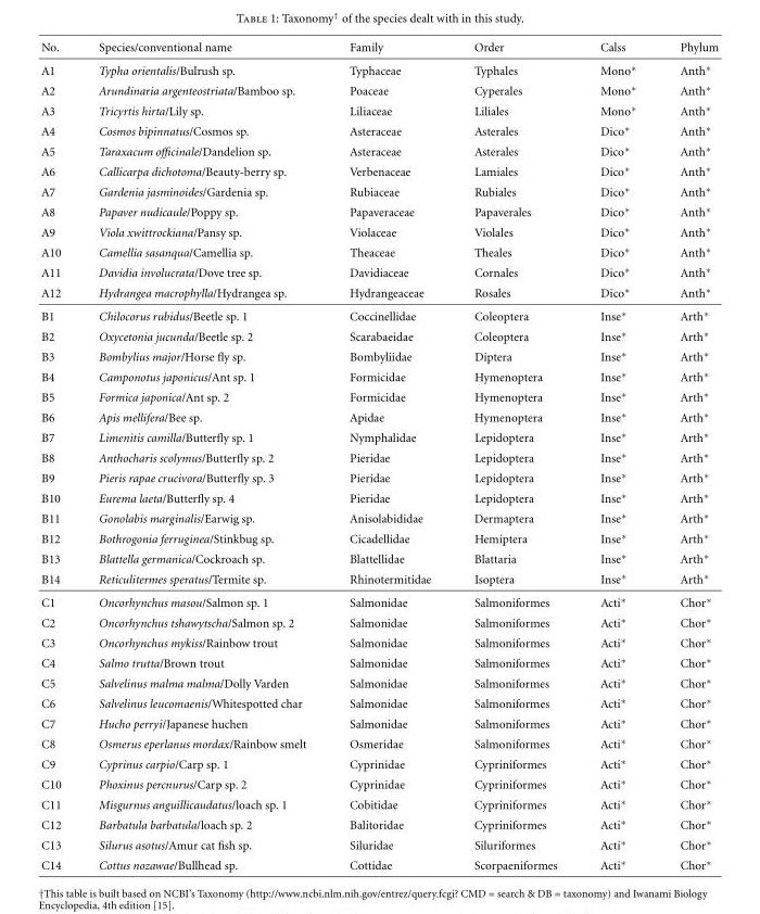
<table><tbody><tr><td>No.</td><td>Species/conventional name</td><td>Family</td><td>Order</td><td>Calss</td><td>Phylum</td></tr><tr><td>A1</td><td>Typha orientalis/Bulrush sp.</td><td>Typhaceae</td><td>Typhales</td><td>Mono∗</td><td>Anth∗</td></tr><tr><td>A2</td><td>Arundinaria argenteostriata/Bamboo sp.</td><td>Poaceae</td><td>Cyperales</td><td>Mono∗</td><td>Anth∗</td></tr><tr><td>A3</td><td>Tricyrtis hirta/Lily sp.</td><td>Liliaceae</td><td>Liliales</td><td>Mono∗</td><td>Anth∗</td></tr><tr><td>A4</td><td>Cosmos bipinnatus/Cosmos sp.</td><td>Asteraceae</td><td>Asterales</td><td>Dico∗</td><td>Anth∗</td></tr><tr><td>A5</td><td>Taraxacum officinale/Dandelion sp.</td><td>Asteraceae</td><td>Asterales</td><td>Dico∗</td><td>Anth∗</td></tr><tr><td>A6</td><td>Callicarpa dichotoma/Beauty-berry sp.</td><td>Verbenaceae</td><td>Lamiales</td><td>Dico∗</td><td>Anth∗</td></tr><tr><td>A7</td><td>Gardenia jasminoides/Gardenia sp.</td><td>Rubiaceae</td><td>Rubiales</td><td>Dico∗</td><td>Anth∗</td></tr><tr><td>A8</td><td>Papaver nudicaule/Poppy sp.</td><td>Papaveraceae</td><td>Papaverales</td><td>Dico∗</td><td>Anth∗</td></tr><tr><td>A9</td><td>Viola xwittrockiana/Pansy sp.</td><td>Violaceae</td><td>Violales</td><td>Dico∗</td><td>Anth∗</td></tr><tr><td>A10</td><td>Camellia sasanqua/Camellia sp.</td><td>Theaceae</td><td>Theales</td><td>Dico∗</td><td>Anth∗</td></tr><tr><td>A11</td><td>Davidia involucrata/Dove tree sp.</td><td>Davidiaceae</td><td>Cornales</td><td>Dico∗</td><td>Anth∗</td></tr><tr><td>A12</td><td>Hydrangea macrophylla/Hydrangea sp.</td><td>Hydrangeaceae</td><td>Rosales</td><td>Dico∗</td><td>Anth∗</td></tr><tr><td>B1</td><td>Chilocorus rubidus/Beetle sp. 1</td><td>Coccinellidae</td><td>Coleoptera</td><td>Inse∗</td><td>Arth∗</td></tr><tr><td>B2</td><td>Oxycetonia jucunda/Beetle sp. 2</td><td>Scarabaeidae</td><td>Coleoptera</td><td>Inse∗</td><td>Arth∗</td></tr><tr><td>B3</td><td>Bombylius major/Horse fly sp.</td><td>Bombyliidae</td><td>Diptera</td><td>Inse∗</td><td>Arth∗</td></tr><tr><td>B4</td><td>Camponotus japonicus/Ant sp. 1</td><td>Formicidae</td><td>Hymenoptera</td><td>Inse∗</td><td>Arth∗</td></tr><tr><td>B5</td><td>Formica japonica/Ant sp. 2</td><td>Formicidae</td><td>Hymenoptera</td><td>Inse∗</td><td>Arth∗</td></tr><tr><td>B6</td><td>Apis mellifera/Bee sp.</td><td>Apidae</td><td>Hymenoptera</td><td>Inse∗</td><td>Arth∗</td></tr><tr><td>B7</td><td>Limenitis camilla/Butterfly sp. 1</td><td>Nymphalidae</td><td>Lepidoptera</td><td>Inse∗</td><td>Arth∗</td></tr><tr><td>B8</td><td>Anthocharis scolymus/Butterfly sp. 2</td><td>Pieridae</td><td>Lepidoptera</td><td>Inse∗</td><td>Arth∗</td></tr><tr><td>B9</td><td>Pieris rapae crucivora/Butterfly sp. 3</td><td>Pieridae</td><td>Lepidoptera</td><td>Inse∗</td><td>Arth∗</td></tr><tr><td>B10</td><td>Eurema laeta/Butterfly sp. 4</td><td>Pieridae</td><td>Lepidoptera</td><td>Inse∗</td><td>Arth∗</td></tr><tr><td>B11</td><td>Gonolabis marginalis/Earwig sp.</td><td>Anisolabididae</td><td>Dermaptera</td><td>Inse∗</td><td>Arth∗</td></tr><tr><td>B12</td><td>Bothrogonia ferruginea/Stinkbug sp.</td><td>Cicadellidae</td><td>Hemiptera</td><td>Inse∗</td><td>Arth∗</td></tr><tr><td>B13</td><td>Blattella germanica/Cockroach sp.</td><td>Blattellidae</td><td>Blattaria</td><td>Inse∗</td><td>Arth∗</td></tr><tr><td>B14</td><td>Reticulitermes speratus/Termite sp.</td><td>Rhinotermitidae</td><td>Isoptera</td><td>Inse∗</td><td>Arth∗</td></tr><tr><td>C1</td><td>Oncorhynchus masou/Salmon sp. 1</td><td>Salmonidae</td><td>Salmoniformes</td><td>Acti∗</td><td>Chor∗</td></tr><tr><td>C2</td><td>Oncorhynchus tshawytscha/Salmon sp. 2</td><td>Salmonidae</td><td>Salmoniformes</td><td>Acti∗</td><td>Chor∗</td></tr><tr><td>C3</td><td>Oncorhynchus mykiss/Rainbow trout</td><td>Salmonidae</td><td>Salmoniformes</td><td>Acti∗</td><td>Chor∗</td></tr><tr><td>C4</td><td>Salmo trutta/Brown trout</td><td>Salmonidae</td><td>Salmoniformes</td><td>Acti∗</td><td>Chor∗</td></tr><tr><td>C5</td><td>Salvelinus malma malma/Dolly Varden</td><td>Salmonidae</td><td>Salmoniformes</td><td>Acti∗</td><td>Chor∗</td></tr><tr><td>C6</td><td>Salvelinus leucomaenis/Whitespotted char</td><td>Salmonidae</td><td>Salmoniformes</td><td>Acti∗</td><td>Chor∗</td></tr><tr><td>C7</td><td>Hucho perryi/Japanese huchen</td><td>Salmonidae</td><td>Salmoniformes</td><td>Acti∗</td><td>Chor∗</td></tr><tr><td>C8</td><td>Osmerus eperlanus mordax/Rainbow smelt</td><td>Osmeridae</td><td>Salmoniformes</td><td>Acti∗</td><td>Chor∗</td></tr><tr><td>C9</td><td>Cyprinus carpio/Carp sp. 1</td><td>Cyprinidae</td><td>Cypriniformes</td><td>Acti∗</td><td>Chor∗</td></tr><tr><td>C10</td><td>Phoxinus percnurus/Carp sp. 2</td><td>Cyprinidae</td><td>Cypriniformes</td><td>Acti∗</td><td>Chor∗</td></tr><tr><td>C11</td><td>Misgurnus anguillicaudatus/loach sp. 1</td><td>Cobitidae</td><td>Cypriniformes</td><td>Acti∗</td><td>Chor∗</td></tr><tr><td>C12</td><td>Barbatula barbatula/loach sp. 2</td><td>Balitoridae</td><td>Cypriniformes</td><td>Acti∗</td><td>Chor∗</td></tr><tr><td>C13</td><td>Silurus asotus/Amur cat fish sp.</td><td>Siluridae</td><td>Siluriformes</td><td>Acti∗</td><td>Chor∗</td></tr><tr><td>C14</td><td>Cottus nozawae/Bullhead sp.</td><td>Cottidae</td><td>Scorpaeniformes</td><td>Acti∗</td><td>Chor∗</td></tr></tbody></table>